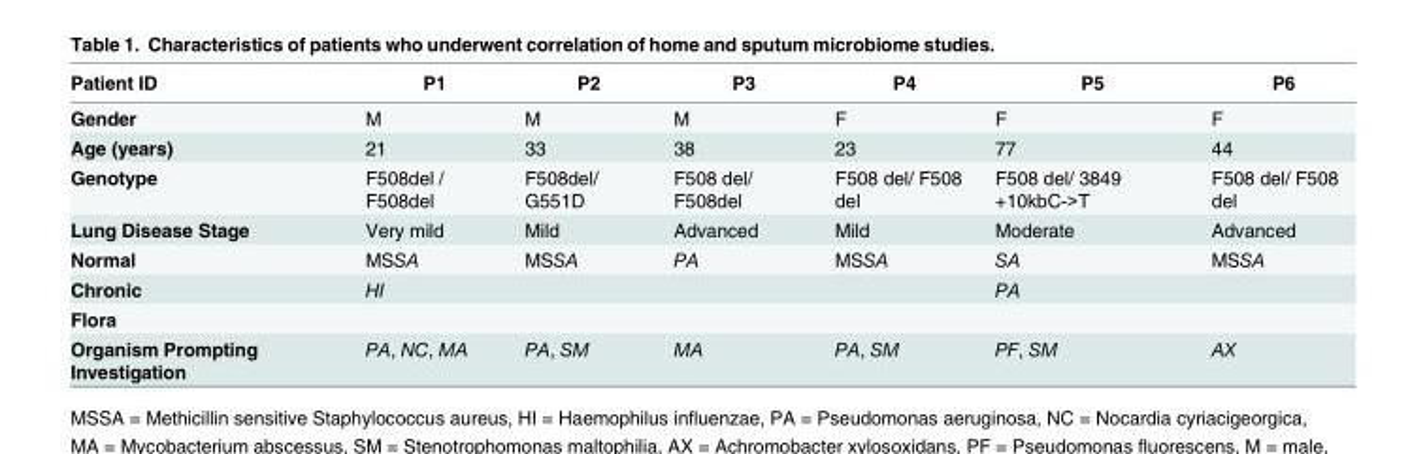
<table><thead><tr><td>Patient ID</td><td>P1</td><td>P2</td><td>P3</td><td>P4</td><td>P5</td><td>P6</td></tr></thead><tbody><tr><td>Gender</td><td>M</td><td>M</td><td>M</td><td>F</td><td>F</td><td>F</td></tr><tr><td>Age (years)</td><td>21</td><td>33</td><td>38</td><td>23</td><td>77</td><td>44</td></tr><tr><td>Genotype</td><td>F508del / F508del</td><td>F508del/ G551D</td><td>F508 del/ F508del</td><td>F508 del/ F508 del</td><td>F508 del/ 3849 +10kbC-&gt;T</td><td>F508 del/ F508 del</td></tr><tr><td>Lung Disease Stage</td><td>Very mild</td><td>Mild</td><td>Advanced</td><td>Mild</td><td>Moderate</td><td>Advanced</td></tr><tr><td>Normal</td><td>MSSA</td><td>MSSA</td><td>PA</td><td>MSSA</td><td>SA</td><td>MSSA</td></tr><tr><td>Chronic</td><td>HI</td><td></td><td></td><td></td><td>PA</td><td></td></tr><tr><td colspan="7">Flora</td></tr><tr><td>Organism Prompting Investigation</td><td>PA, NC, MA</td><td>PA, SM</td><td>MA</td><td>PA, SM</td><td>PF, SM</td><td>AX</td></tr></tbody></table>